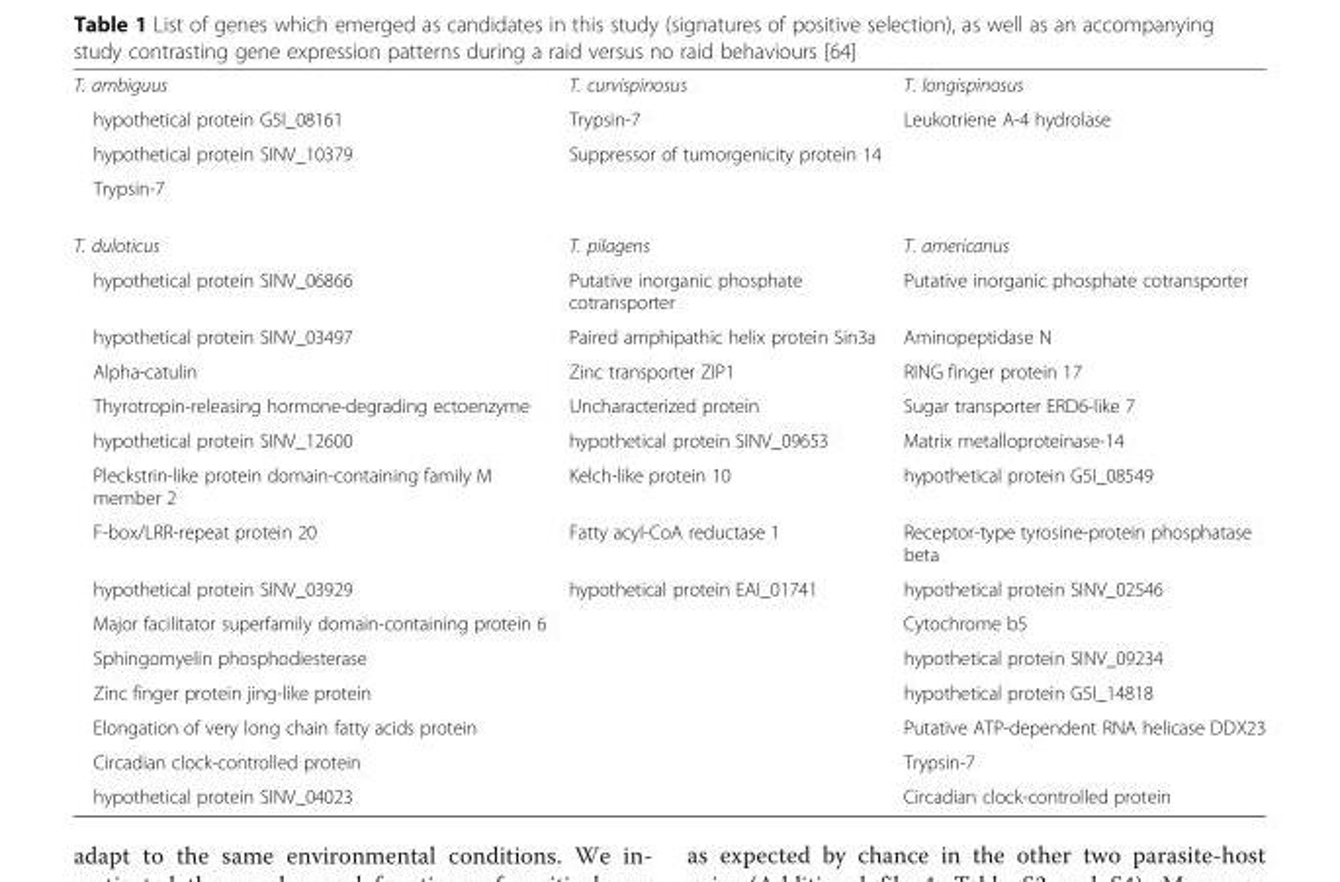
<table><tbody><tr><td>T. ambiguus</td><td>T. curvispinosus</td><td>T. longispinosus</td></tr><tr><td>hypothetical protein G5I_08161</td><td>Trypsin-7</td><td>Leukotriene A-4 hydrolase</td></tr><tr><td>hypothetical protein SINV_10379</td><td>Suppressor of tumorgenicity protein 14</td><td></td></tr><tr><td colspan="3">Trypsin-7</td></tr><tr><td>T. duloticus</td><td>T. pilagens</td><td>T. americanus</td></tr><tr><td>hypothetical protein SINV_06866</td><td>Putative inorganic phosphate cotransporter</td><td>Putative inorganic phosphate cotransporter</td></tr><tr><td>hypothetical protein SINV_03497</td><td>Paired amphipathic helix protein Sin3a</td><td>Aminopeptidase N</td></tr><tr><td>Alpha-catulin</td><td>Zinc transporter ZIP1</td><td>RING finger protein 17</td></tr><tr><td>Thyrotropin-releasing hormone-degrading ectoenzyme</td><td>Uncharacterized protein</td><td>Sugar transporter ERD6-like 7</td></tr><tr><td>hypothetical protein SINV_12600</td><td>hypothetical protein SINV_09653</td><td>Matrix metalloproteinase-14</td></tr><tr><td>Pleckstrin-like protein domain-containing family M member 2</td><td>Kelch-like protein 10</td><td>hypothetical protein G5I_08549</td></tr><tr><td>F-box/LRR-repeat protein 20</td><td>Fatty acyl-CoA reductase 1</td><td>Receptor-type tyrosine-protein phosphatase beta</td></tr><tr><td>hypothetical protein SINV_03929</td><td>hypothetical protein EAI_01741</td><td>hypothetical protein SINV_02546</td></tr><tr><td>Major facilitator superfamily domain-containing protein 6</td><td></td><td>Cytochrome b5</td></tr><tr><td>Sphingomyelin phosphodiesterase</td><td></td><td>hypothetical protein SINV_09234</td></tr><tr><td>Zinc finger protein jing-like protein</td><td></td><td>hypothetical protein G5I_14818</td></tr><tr><td>Elongation of very long chain fatty acids protein</td><td></td><td>Putative ATP-dependent RNA helicase DDX23</td></tr><tr><td>Circadian clock-controlled protein</td><td></td><td>Trypsin-7</td></tr><tr><td>hypothetical protein SINV_04023</td><td></td><td>Circadian clock-controlled protein</td></tr></tbody></table>